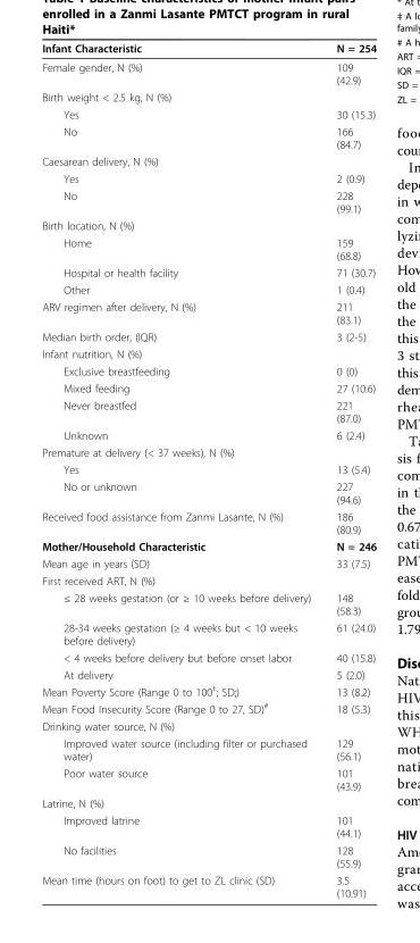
<table><thead><tr><td>Infant Characteristic</td><td>N = 254</td></tr></thead><tbody><tr><td>Female gender, N (%)</td><td>109 (42.9)</td></tr><tr><td colspan="2">Birth weight &lt; 2.5 kg, N (%)</td></tr><tr><td>Yes</td><td>30 (15.3)</td></tr><tr><td>No</td><td>166 (84.7)</td></tr><tr><td colspan="2">Caesarean delivery, N (%)</td></tr><tr><td>Yes</td><td>2 (0.9)</td></tr><tr><td>No</td><td>228 (99.1)</td></tr><tr><td colspan="2">Birth location, N (%)</td></tr><tr><td>Home</td><td>159 (68.8)</td></tr><tr><td>Hospital or health facility</td><td>71 (30.7)</td></tr><tr><td>Other</td><td>1 (0.4)</td></tr><tr><td>ARV regimen after delivery, N (%)</td><td>211 (83.1)</td></tr><tr><td>Median birth order, (IQR)</td><td>3 (2-5)</td></tr><tr><td colspan="2">Infant nutrition, N (%)</td></tr><tr><td>Exclusive breastfeeding</td><td>0 (0)</td></tr><tr><td>Mixed feeding</td><td>27 (10.6)</td></tr><tr><td>Never breastfed</td><td>221 (87.0)</td></tr><tr><td>Unknown</td><td>6 (2.4)</td></tr><tr><td colspan="2">Premature at delivery (&lt; 37 weeks), N (%)</td></tr><tr><td>Yes</td><td>13 (5.4)</td></tr><tr><td>No or unknown</td><td>227 (94.6)</td></tr><tr><td>Received food assistance from Zanmi Lasante, N (%)</td><td>186 (80.9)</td></tr><tr><td>Mother/Household Characteristic</td><td>N = 246</td></tr><tr><td>Mean age in years (SD)</td><td>33 (7.5)</td></tr><tr><td colspan="2">First received ART, N (%)</td></tr><tr><td>≤ 28 weeks gestation (or ≥ 10 weeks before delivery)</td><td>148 (58.3)</td></tr><tr><td>28-34 weeks gestation (≥ 4 weeks but &lt; 10 weeks before delivery)</td><td>61 (24.0)</td></tr><tr><td>&lt; 4 weeks before delivery but before onset labor</td><td>40 (15.8)</td></tr><tr><td>At delivery</td><td>5 (2.0)</td></tr><tr><td>Mean Poverty Score (Range 0 to 100<sup>‡</sup>; SD;)</td><td>13 (8.2)</td></tr><tr><td>Mean Food Insecurity Score (Range 0 to 27, SD)<sup>#</sup></td><td>18 (5.3)</td></tr><tr><td colspan="2">Drinking water source, N (%)</td></tr><tr><td>Improved water source (including filter or purchased water)</td><td>129 (56.1)</td></tr><tr><td>Poor water source</td><td>101 (43.9)</td></tr><tr><td colspan="2">Latrine, N (%)</td></tr><tr><td>Improved latrine</td><td>101 (44.1)</td></tr><tr><td>No facilities</td><td>128 (55.9)</td></tr><tr><td>Mean time (hours on foot) to get to ZL clinic (SD)</td><td>3.5 (10.91)</td></tr></tbody></table>